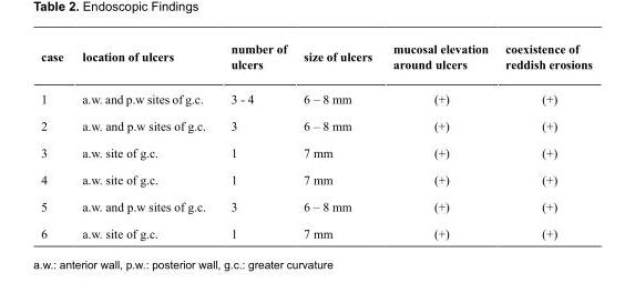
<table><thead><tr><td>case</td><td>location of ulcers</td><td>number of ulcers</td><td>size of ulcers</td><td>mucosal elevation around ulcers</td><td>coexistence of reddish erosions</td></tr></thead><tbody><tr><td>1</td><td>a.w. and p.w sites of g.c.</td><td>3 - 4</td><td>6 – 8 mm</td><td>(+)</td><td>(+)</td></tr><tr><td>2</td><td>a.w. and p.w sites of g.c.</td><td>3</td><td>6 – 8 mm</td><td>(+)</td><td>(+)</td></tr><tr><td>3</td><td>a.w. site of g.c.</td><td>1</td><td>7 mm</td><td>(+)</td><td>(+)</td></tr><tr><td>4</td><td>a.w. site of g.c.</td><td>1</td><td>7 mm</td><td>(+)</td><td>(+)</td></tr><tr><td>5</td><td>a.w. and p.w sites of g.c.</td><td>3</td><td>6 – 8 mm</td><td>(+)</td><td>(+)</td></tr><tr><td>6</td><td>a.w. site of g.c.</td><td>1</td><td>7 mm</td><td>(+)</td><td>(+)</td></tr></tbody></table>